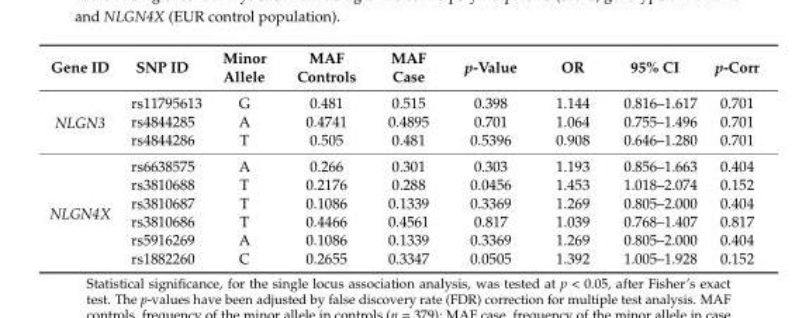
<table><thead><tr><td>Gene ID</td><td>SNP ID</td><td>Minor Allele</td><td>MAF Controls</td><td>MAF Case</td><td>p-Value</td><td>OR</td><td>95% CI</td><td>p-Corr</td></tr></thead><tbody><tr><td rowspan="3">NLGN3</td><td>rs11795613</td><td>G</td><td>0.481</td><td>0.515</td><td>0.398</td><td>1.144</td><td>0.816–1.617</td><td>0.701</td></tr><tr><td>rs4844285</td><td>A</td><td>0.4741</td><td>0.4895</td><td>0.701</td><td>1.064</td><td>0.755–1.496</td><td>0.701</td></tr><tr><td>rs4844286</td><td>T</td><td>0.505</td><td>0.481</td><td>0.5396</td><td>0.908</td><td>0.646–1.280</td><td>0.701</td></tr><tr><td rowspan="6">NLGN4X</td><td>rs6638575</td><td>A</td><td>0.266</td><td>0.301</td><td>0.303</td><td>1.193</td><td>0.856–1.663</td><td>0.404</td></tr><tr><td>rs3810688</td><td>T</td><td>0.2176</td><td>0.288</td><td>0.0456</td><td>1.453</td><td>1.018–2.074</td><td>0.152</td></tr><tr><td>rs3810687</td><td>T</td><td>0.1086</td><td>0.1339</td><td>0.3369</td><td>1.269</td><td>0.805–2.000</td><td>0.404</td></tr><tr><td>rs3810686</td><td>T</td><td>0.4466</td><td>0.4561</td><td>0.817</td><td>1.039</td><td>0.768–1.407</td><td>0.817</td></tr><tr><td>rs5916269</td><td>A</td><td>0.1086</td><td>0.1339</td><td>0.3369</td><td>1.269</td><td>0.805–2.000</td><td>0.404</td></tr><tr><td>rs1882260</td><td>C</td><td>0.2655</td><td>0.3347</td><td>0.0505</td><td>1.392</td><td>1.005–1.928</td><td>0.152</td></tr></tbody></table>